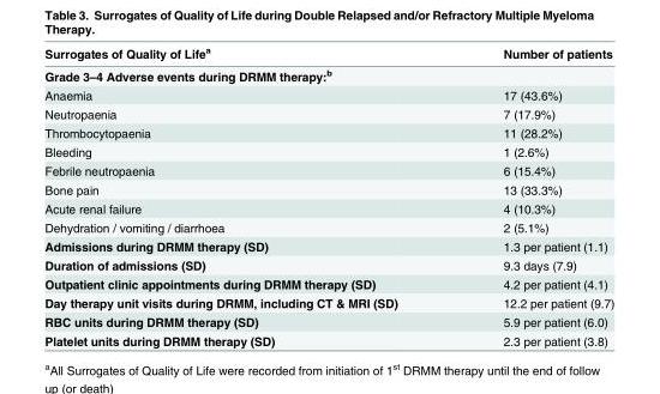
<table><thead><tr><td>Surrogates of Quality of Life<sup>a</sup></td><td>Number of patients</td></tr></thead><tbody><tr><td colspan="2">Grade 3–4 Adverse events during DRMM therapy:<sup>b</sup></td></tr><tr><td>Anaemia</td><td>17 (43.6%)</td></tr><tr><td>Neutropaenia</td><td>7 (17.9%)</td></tr><tr><td>Thrombocytopaenia</td><td>11 (28.2%)</td></tr><tr><td>Bleeding</td><td>1 (2.6%)</td></tr><tr><td>Febrile neutropaenia</td><td>6 (15.4%)</td></tr><tr><td>Bone pain</td><td>13 (33.3%)</td></tr><tr><td>Acute renal failure</td><td>4 (10.3%)</td></tr><tr><td>Dehydration / vomiting / diarrhoea</td><td>2 (5.1%)</td></tr><tr><td>Admissions during DRMM therapy (SD)</td><td>1.3 per patient (1.1)</td></tr><tr><td>Duration of admissions (SD)</td><td>9.3 days (7.9)</td></tr><tr><td>Outpatient clinic appointments during DRMM therapy (SD)</td><td>4.2 per patient (4.1)</td></tr><tr><td>Day therapy unit visits during DRMM, including CT &amp; MRI (SD)</td><td>12.2 per patient (9.7)</td></tr><tr><td>RBC units during DRMM therapy (SD)</td><td>5.9 per patient (6.0)</td></tr><tr><td>Platelet units during DRMM therapy (SD)</td><td>2.3 per patient (3.8)</td></tr></tbody></table>